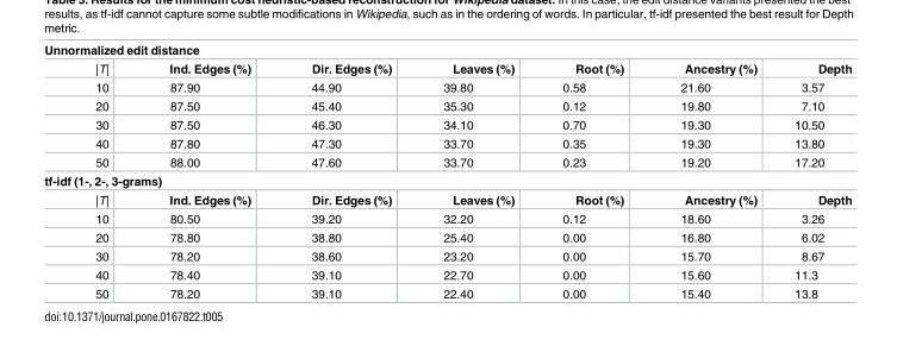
<table><tbody><tr><td colspan="7">Unnormalized edit distance</td></tr><tr><td>|T|</td><td>Ind. Edges (%)</td><td>Dir. Edges (%)</td><td>Leaves (%)</td><td>Root (%)</td><td>Ancestry (%)</td><td>Depth</td></tr><tr><td>10</td><td>87.90</td><td>44.90</td><td>39.80</td><td>0.58</td><td>21.60</td><td>3.57</td></tr><tr><td>20</td><td>87.50</td><td>45.40</td><td>35.30</td><td>0.12</td><td>19.80</td><td>7.10</td></tr><tr><td>30</td><td>87.50</td><td>46.30</td><td>34.10</td><td>0.70</td><td>19.30</td><td>10.50</td></tr><tr><td>40</td><td>87.80</td><td>47.30</td><td>33.70</td><td>0.35</td><td>19.30</td><td>13.80</td></tr><tr><td>50</td><td>88.00</td><td>47.60</td><td>33.70</td><td>0.23</td><td>19.20</td><td>17.20</td></tr><tr><td colspan="7">tf-idf (1-, 2-, 3-grams)</td></tr><tr><td>|T|</td><td>Ind. Edges (%)</td><td>Dir. Edges (%)</td><td>Leaves (%)</td><td>Root (%)</td><td>Ancestry (%)</td><td>Depth</td></tr><tr><td>10</td><td>80.50</td><td>39.20</td><td>32.20</td><td>0.12</td><td>18.60</td><td>3.26</td></tr><tr><td>20</td><td>78.80</td><td>38.80</td><td>25.40</td><td>0.00</td><td>16.80</td><td>6.02</td></tr><tr><td>30</td><td>78.20</td><td>38.60</td><td>23.20</td><td>0.00</td><td>15.70</td><td>8.67</td></tr><tr><td>40</td><td>78.40</td><td>39.10</td><td>22.70</td><td>0.00</td><td>15.60</td><td>11.3</td></tr><tr><td>50</td><td>78.20</td><td>39.10</td><td>22.40</td><td>0.00</td><td>15.40</td><td>13.8</td></tr></tbody></table>